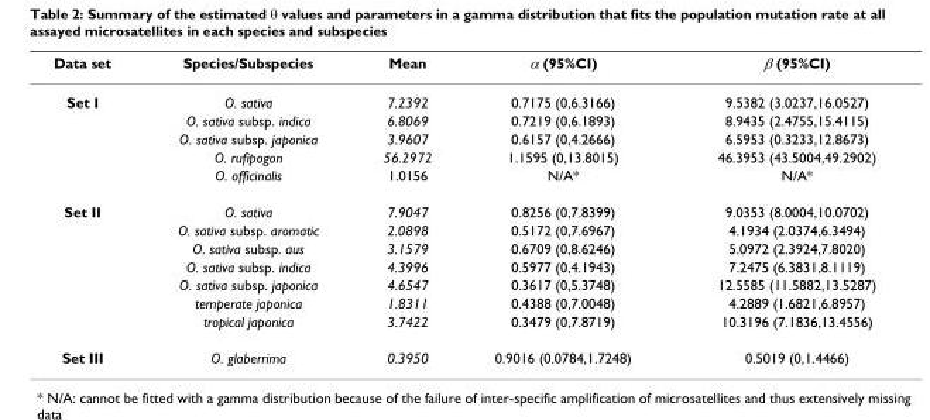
<table><thead><tr><td>Data set</td><td>Species/Subspecies</td><td>Mean</td><td>α (95%CI)</td><td>β (95%CI)</td></tr></thead><tbody><tr><td rowspan="5">Set I</td><td>O. sativa</td><td>7.2392</td><td>0.7175 (0,6.3166)</td><td>9.5382 (3.0237,16.0527)</td></tr><tr><td>O. sativa subsp. indica</td><td>6.8069</td><td>0.7219 (0,6.1893)</td><td>8.9435 (2.4755,15.4115)</td></tr><tr><td>O. sativa subsp. japonica</td><td>3.9607</td><td>0.6157 (0,4.2666)</td><td>6.5953 (0.3233,12.8673)</td></tr><tr><td>O. rufipogon</td><td>56.2972</td><td>1.1595 (0,13.8015)</td><td>46.3953 (43.5004,49.2902)</td></tr><tr><td>O. officinalis</td><td>1.0156</td><td>N/A*</td><td>N/A*</td></tr><tr><td rowspan="7">Set II</td><td>O. sativa</td><td>7.9047</td><td>0.8256 (0,7.8399)</td><td>9.0353 (8.0004,10.0702)</td></tr><tr><td>O. sativa subsp. aromatic</td><td>2.0898</td><td>0.5172 (0,7.6967)</td><td>4.1934 (2.0374,6.3494)</td></tr><tr><td>O. sativa subsp. aus</td><td>3.1579</td><td>0.6709 (0,8.6246)</td><td>5.0972 (2.3924,7.8020)</td></tr><tr><td>O. sativa subsp. indica</td><td>4.3996</td><td>0.5977 (0,4.1943)</td><td>7.2475 (6.3831,8.1119)</td></tr><tr><td>O. sativa subsp. japonica</td><td>4.6547</td><td>0.3617 (0,5.3748)</td><td>12.5585 (11.5882,13.5287)</td></tr><tr><td>temperate japonica</td><td>1.8311</td><td>0.4388 (0,7.0048)</td><td>4.2889 (1.6821,6.8957)</td></tr><tr><td>tropical japonica</td><td>3.7422</td><td>0.3479 (0,7.8719)</td><td>10.3196 (7.1836,13.4556)</td></tr><tr><td>Set III</td><td>O. glaberrima</td><td>0.3950</td><td>0.9016 (0.0784,1.7248)</td><td>0.5019 (0,1.4466)</td></tr></tbody></table>